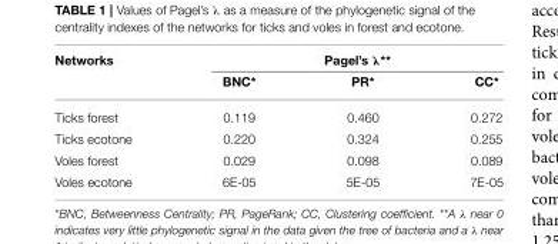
<table><thead><tr><td rowspan="2">Networks</td><td colspan="3">Pagel’s λ**</td></tr><tr><td>BNC*</td><td>PR*</td><td>CC*</td></tr></thead><tbody><tr><td>Ticks forest</td><td>0.119</td><td>0.460</td><td>0.272</td></tr><tr><td>Ticks ecotone</td><td>0.220</td><td>0.324</td><td>0.255</td></tr><tr><td>Voles forest</td><td>0.029</td><td>0.098</td><td>0.089</td></tr><tr><td>Voles ecotone</td><td>6E-05</td><td>5E-05</td><td>7E-05</td></tr></tbody></table>